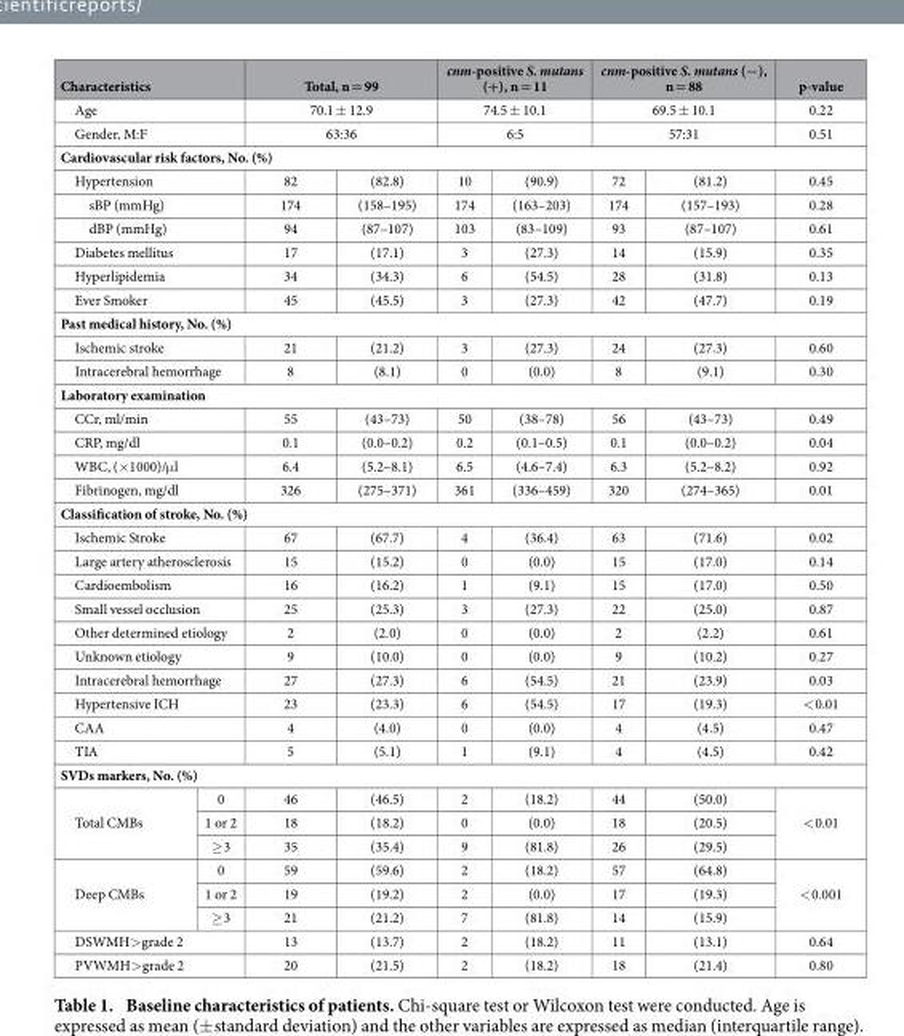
<table><thead><tr><td colspan="2">Characteristics</td><td colspan="2">Total, n = 99</td><td colspan="2">cnm-positive S. mutans (+), n = 11</td><td colspan="2">cnm-positive S. mutans (−), n = 88</td><td>p-value</td></tr></thead><tbody><tr><td colspan="2">Age</td><td colspan="2">70.1 ± 12.9</td><td colspan="2">74.5 ± 10.1</td><td colspan="2">69.5 ± 10.1</td><td>0.22</td></tr><tr><td colspan="2">Gender, M:F</td><td colspan="2">63:36</td><td colspan="2">6:5</td><td colspan="2">57:31</td><td>0.51</td></tr><tr><td colspan="9">Cardiovascular risk factors, No. (%)</td></tr><tr><td colspan="2">Hypertension</td><td>82</td><td>(82.8)</td><td>10</td><td>(90.9)</td><td>72</td><td>(81.2)</td><td>0.45</td></tr><tr><td colspan="2">sBP (mmHg)</td><td>174</td><td>(158–195)</td><td>174</td><td>(163–203)</td><td>174</td><td>(157–193)</td><td>0.28</td></tr><tr><td colspan="2">dBP (mmHg)</td><td>94</td><td>(87–107)</td><td>103</td><td>(83–109)</td><td>93</td><td>(87–107)</td><td>0.61</td></tr><tr><td colspan="2">Diabetes mellitus</td><td>17</td><td>(17.1)</td><td>3</td><td>(27.3)</td><td>14</td><td>(15.9)</td><td>0.35</td></tr><tr><td colspan="2">Hyperlipidemia</td><td>34</td><td>(34.3)</td><td>6</td><td>(54.5)</td><td>28</td><td>(31.8)</td><td>0.13</td></tr><tr><td colspan="2">Ever Smoker</td><td>45</td><td>(45.5)</td><td>3</td><td>(27.3)</td><td>42</td><td>(47.7)</td><td>0.19</td></tr><tr><td colspan="9">Past medical history, No. (%)</td></tr><tr><td colspan="2">Ischemic stroke</td><td>21</td><td>(21.2)</td><td>3</td><td>(27.3)</td><td>24</td><td>(27.3)</td><td>0.60</td></tr><tr><td colspan="2">Intracerebral hemorrhage</td><td>8</td><td>(8.1)</td><td>0</td><td>(0.0)</td><td>8</td><td>(9.1)</td><td>0.30</td></tr><tr><td colspan="9">Laboratory examination</td></tr><tr><td colspan="2">CCr, ml/min</td><td>55</td><td>(43–73)</td><td>50</td><td>(38–78)</td><td>56</td><td>(43–73)</td><td>0.49</td></tr><tr><td colspan="2">CRP, mg/dl</td><td>0.1</td><td>(0.0–0.2)</td><td>0.2</td><td>(0.1–0.5)</td><td>0.1</td><td>(0.0–0.2)</td><td>0.04</td></tr><tr><td colspan="2">WBC, (×1000)/μ l</td><td>6.4</td><td>(5.2–8.1)</td><td>6.5</td><td>(4.6–7.4)</td><td>6.3</td><td>(5.2–8.2)</td><td>0.92</td></tr><tr><td colspan="2">Fibrinogen, mg/dl</td><td>326</td><td>(275–371)</td><td>361</td><td>(336–459)</td><td>320</td><td>(274–365)</td><td>0.01</td></tr><tr><td colspan="9">Classification of stroke, No. (%)</td></tr><tr><td colspan="2">Ischemic Stroke</td><td>67</td><td>(67.7)</td><td>4</td><td>(36.4)</td><td>63</td><td>(71.6)</td><td>0.02</td></tr><tr><td colspan="2">Large artery atherosclerosis</td><td>15</td><td>(15.2)</td><td>0</td><td>(0.0)</td><td>15</td><td>(17.0)</td><td>0.14</td></tr><tr><td colspan="2">Cardioembolism</td><td>16</td><td>(16.2)</td><td>1</td><td>(9.1)</td><td>15</td><td>(17.0)</td><td>0.50</td></tr><tr><td colspan="2">Small vessel occlusion</td><td>25</td><td>(25.3)</td><td>3</td><td>(27.3)</td><td>22</td><td>(25.0)</td><td>0.87</td></tr><tr><td colspan="2">Other determined etiology</td><td>2</td><td>(2.0)</td><td>0</td><td>(0.0)</td><td>2</td><td>(2.2)</td><td>0.61</td></tr><tr><td colspan="2">Unknown etiology</td><td>9</td><td>(10.0)</td><td>0</td><td>(0.0)</td><td>9</td><td>(10.2)</td><td>0.27</td></tr><tr><td colspan="2">Intracerebral hemorrhage</td><td>27</td><td>(27.3)</td><td>6</td><td>(54.5)</td><td>21</td><td>(23.9)</td><td>0.03</td></tr><tr><td colspan="2">Hypertensive ICH</td><td>23</td><td>(23.3)</td><td>6</td><td>(54.5)</td><td>17</td><td>(19.3)</td><td>&lt; 0.01</td></tr><tr><td colspan="2">CAA</td><td>4</td><td>(4.0)</td><td>0</td><td>(0.0)</td><td>4</td><td>(4.5)</td><td>0.47</td></tr><tr><td colspan="2">TIA</td><td>5</td><td>(5.1)</td><td>1</td><td>(9.1)</td><td>4</td><td>(4.5)</td><td>0.42</td></tr><tr><td colspan="9">SVDs markers, No. (%)</td></tr><tr><td rowspan="3">Total CMBs</td><td>0</td><td>46</td><td>(46.5)</td><td>2</td><td>(18.2)</td><td>44</td><td>(50.0)</td><td rowspan="3">&lt; 0.01</td></tr><tr><td>1 or 2</td><td>18</td><td>(18.2)</td><td>0</td><td>(0.0)</td><td>18</td><td>(20.5)</td></tr><tr><td>≥ 3</td><td>35</td><td>(35.4)</td><td>9</td><td>(81.8)</td><td>26</td><td>(29.5)</td></tr><tr><td rowspan="3">Deep CMBs</td><td>0</td><td>59</td><td>(59.6)</td><td>2</td><td>(18.2)</td><td>57</td><td>(64.8)</td><td rowspan="3">&lt; 0.001</td></tr><tr><td>1 or 2</td><td>19</td><td>(19.2)</td><td>2</td><td>(0.0)</td><td>17</td><td>(19.3)</td></tr><tr><td>≥ 3</td><td>21</td><td>(21.2)</td><td>7</td><td>(81.8)</td><td>14</td><td>(15.9)</td></tr><tr><td colspan="2">DSWMH&gt; grade 2</td><td>13</td><td>(13.7)</td><td>2</td><td>(18.2)</td><td>11</td><td>(13.1)</td><td>0.64</td></tr><tr><td colspan="2">PVWMH&gt; grade 2</td><td>20</td><td>(21.5)</td><td>2</td><td>(18.2)</td><td>18</td><td>(21.4)</td><td>0.80</td></tr></tbody></table>